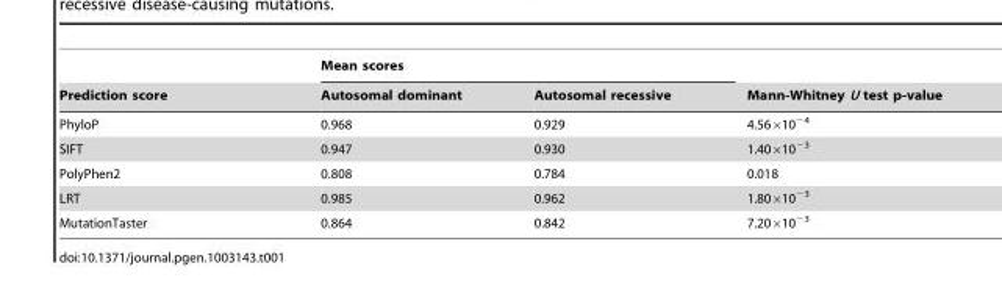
<table><thead><tr><td rowspan="2">Prediction score</td><td colspan="2">Mean scores</td><td rowspan="2">Mann-Whitney U test p-value</td></tr><tr><td>Autosomal dominant</td><td>Autosomal recessive</td></tr></thead><tbody><tr><td>PhyloP</td><td>0.968</td><td>0.929</td><td>4.56×10<sup>−4</sup></td></tr><tr><td>SIFT</td><td>0.947</td><td>0.930</td><td>1.40×10<sup>−3</sup></td></tr><tr><td>PolyPhen2</td><td>0.808</td><td>0.784</td><td>0.018</td></tr><tr><td>LRT</td><td>0.985</td><td>0.962</td><td>1.80×10<sup>−3</sup></td></tr><tr><td>MutationTaster</td><td>0.864</td><td>0.842</td><td>7.20×10<sup>−3</sup></td></tr></tbody></table>